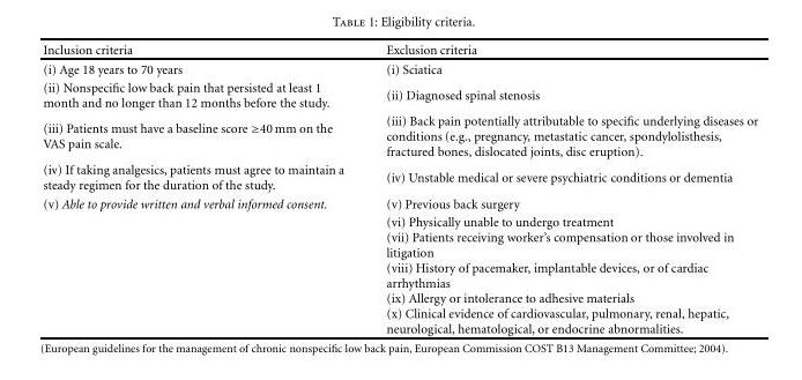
<table><thead><tr><td>Inclusion criteria</td><td>Exclusion criteria</td></tr></thead><tbody><tr><td>(i) Age 18 years to 70 years</td><td>(i) Sciatica</td></tr><tr><td>(ii) Nonspecific low back pain that persisted at least 1 month and no longer than 12 months before the study.</td><td>(ii) Diagnosed spinal stenosis</td></tr><tr><td>(iii) Patients must have a baseline score ≥40 mm on the VAS pain scale.</td><td>(iii) Back pain potentially attributable to specific underlying diseases or conditions (e.g., pregnancy, metastatic cancer, spondylolisthesis, fractured bones, dislocated joints, disc eruption).</td></tr><tr><td>(iv) If taking analgesics, patients must agree to maintain a steady regimen for the duration of the study.</td><td>(iv) Unstable medical or severe psychiatric conditions or dementia</td></tr><tr><td rowspan="2">(v) Able to provide written and verbal informed consent.</td><td>(v) Previous back surgery</td></tr><tr><td>(vi) Physically unable to undergo treatment (vii) Patients receiving worker’s compensation or those involved in litigation (viii) History of pacemaker, implantable devices, or of cardiac arrhythmias (ix) Allergy or intolerance to adhesive materials (x) Clinical evidence of cardiovascular, pulmonary, renal, hepatic, neurological, hematological, or endocrine abnormalities.</td></tr></tbody></table>